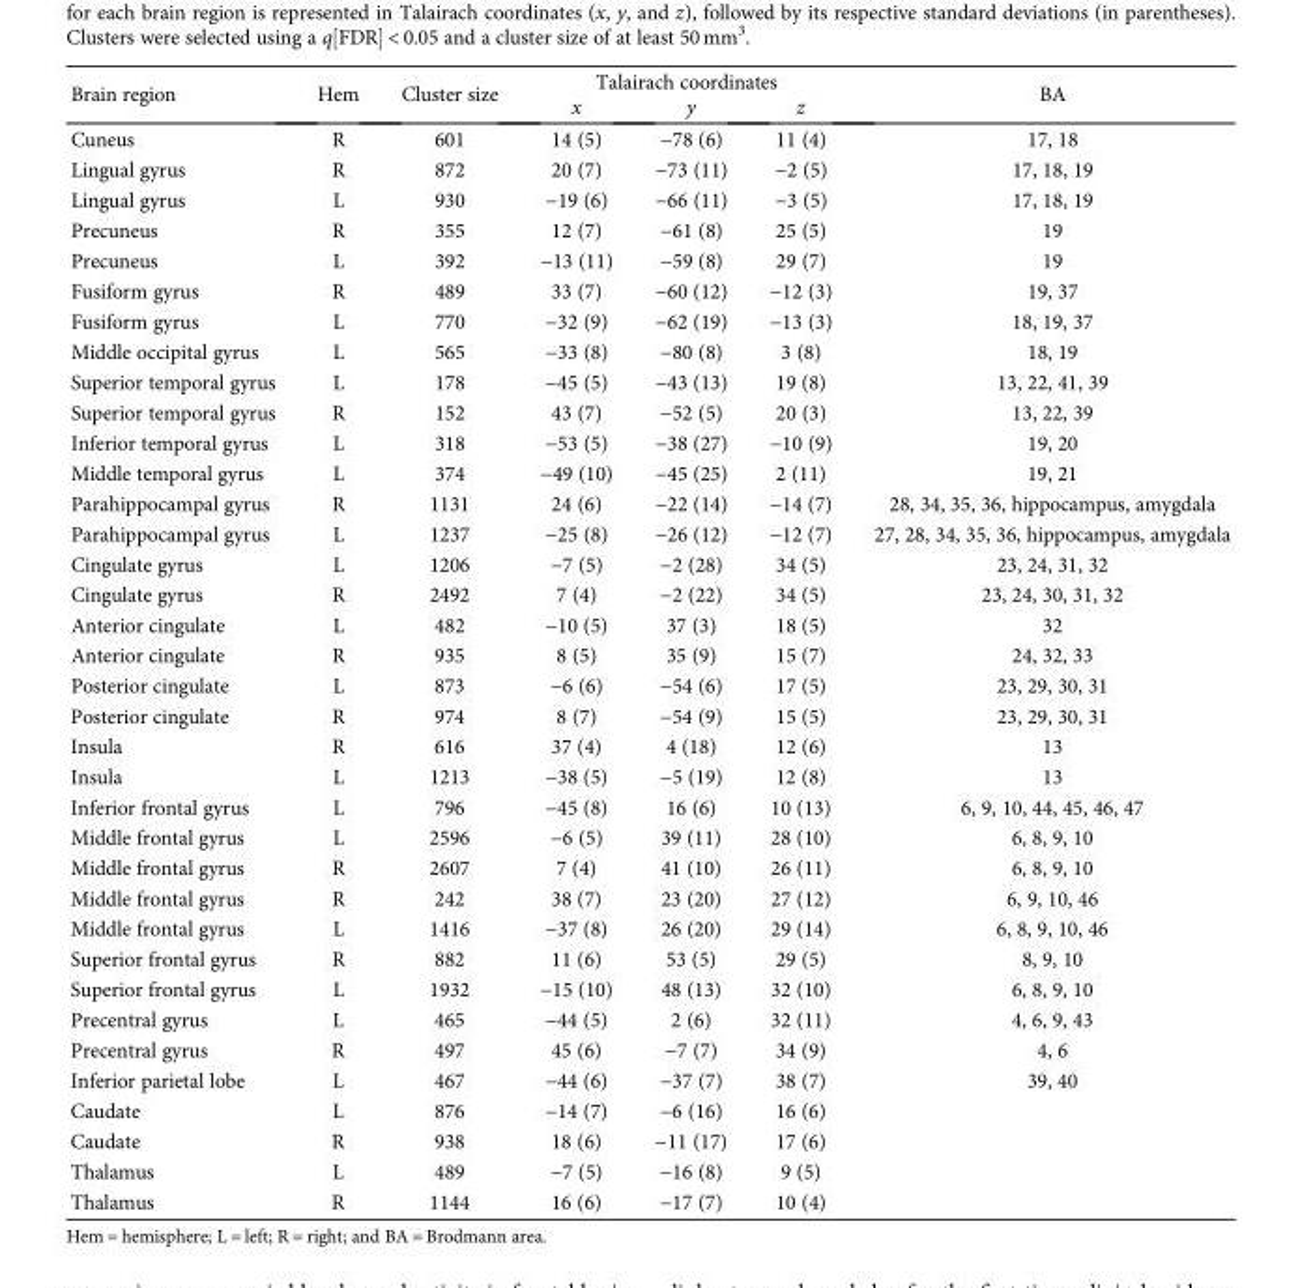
<table><thead><tr><td rowspan="2">Brain region</td><td rowspan="2">Hem</td><td rowspan="2">Cluster size</td><td colspan="3">Talairach coordinates</td><td rowspan="2">BA</td></tr><tr><td>x</td><td>y</td><td>z</td></tr></thead><tbody><tr><td>Cuneus</td><td>R</td><td>601</td><td>14 (5)</td><td>−78 (6)</td><td>11 (4)</td><td>17, 18</td></tr><tr><td>Lingual gyrus</td><td>R</td><td>872</td><td>20 (7)</td><td>−73 (11)</td><td>−2 (5)</td><td>17, 18, 19</td></tr><tr><td>Lingual gyrus</td><td>L</td><td>930</td><td>−19 (6)</td><td>−66 (11)</td><td>−3 (5)</td><td>17, 18, 19</td></tr><tr><td>Precuneus</td><td>R</td><td>355</td><td>12 (7)</td><td>−61 (8)</td><td>25 (5)</td><td>19</td></tr><tr><td>Precuneus</td><td>L</td><td>392</td><td>−13 (11)</td><td>−59 (8)</td><td>29 (7)</td><td>19</td></tr><tr><td>Fusiform gyrus</td><td>R</td><td>489</td><td>33 (7)</td><td>−60 (12)</td><td>−12 (3)</td><td>19, 37</td></tr><tr><td>Fusiform gyrus</td><td>L</td><td>770</td><td>−32 (9)</td><td>−62 (19)</td><td>−13 (3)</td><td>18, 19, 37</td></tr><tr><td>Middle occipital gyrus</td><td>L</td><td>565</td><td>−33 (8)</td><td>−80 (8)</td><td>3 (8)</td><td>18, 19</td></tr><tr><td>Superior temporal gyrus</td><td>L</td><td>178</td><td>−45 (5)</td><td>−43 (13)</td><td>19 (8)</td><td>13, 22, 41, 39</td></tr><tr><td>Superior temporal gyrus</td><td>R</td><td>152</td><td>43 (7)</td><td>−52 (5)</td><td>20 (3)</td><td>13, 22, 39</td></tr><tr><td>Inferior temporal gyrus</td><td>L</td><td>318</td><td>−53 (5)</td><td>−38 (27)</td><td>−10 (9)</td><td>19, 20</td></tr><tr><td>Middle temporal gyrus</td><td>L</td><td>374</td><td>−49 (10)</td><td>−45 (25)</td><td>2 (11)</td><td>19, 21</td></tr><tr><td>Parahippocampal gyrus</td><td>R</td><td>1131</td><td>24 (6)</td><td>−22 (14)</td><td>−14 (7)</td><td>28, 34, 35, 36, hippocampus, amygdala</td></tr><tr><td>Parahippocampal gyrus</td><td>L</td><td>1237</td><td>−25 (8)</td><td>−26 (12)</td><td>−12 (7)</td><td>27, 28, 34, 35, 36, hippocampus, amygdala</td></tr><tr><td>Cingulate gyrus</td><td>L</td><td>1206</td><td>−7 (5)</td><td>−2 (28)</td><td>34 (5)</td><td>23, 24, 31, 32</td></tr><tr><td>Cingulate gyrus</td><td>R</td><td>2492</td><td>7 (4)</td><td>−2 (22)</td><td>34 (5)</td><td>23, 24, 30, 31, 32</td></tr><tr><td>Anterior cingulate</td><td>L</td><td>482</td><td>−10 (5)</td><td>37 (3)</td><td>18 (5)</td><td>32</td></tr><tr><td>Anterior cingulate</td><td>R</td><td>935</td><td>8 (5)</td><td>35 (9)</td><td>15 (7)</td><td>24, 32, 33</td></tr><tr><td>Posterior cingulate</td><td>L</td><td>873</td><td>−6 (6)</td><td>−54 (6)</td><td>17 (5)</td><td>23, 29, 30, 31</td></tr><tr><td>Posterior cingulate</td><td>R</td><td>974</td><td>8 (7)</td><td>−54 (9)</td><td>15 (5)</td><td>23, 29, 30, 31</td></tr><tr><td>Insula</td><td>R</td><td>616</td><td>37 (4)</td><td>4 (18)</td><td>12 (6)</td><td>13</td></tr><tr><td>Insula</td><td>L</td><td>1213</td><td>−38 (5)</td><td>−5 (19)</td><td>12 (8)</td><td>13</td></tr><tr><td>Inferior frontal gyrus</td><td>L</td><td>796</td><td>−45 (8)</td><td>16 (6)</td><td>10 (13)</td><td>6, 9, 10, 44, 45, 46, 47</td></tr><tr><td>Middle frontal gyrus</td><td>L</td><td>2596</td><td>−6 (5)</td><td>39 (11)</td><td>28 (10)</td><td>6, 8, 9, 10</td></tr><tr><td>Middle frontal gyrus</td><td>R</td><td>2607</td><td>7 (4)</td><td>41 (10)</td><td>26 (11)</td><td>6, 8, 9, 10</td></tr><tr><td>Middle frontal gyrus</td><td>R</td><td>242</td><td>38 (7)</td><td>23 (20)</td><td>27 (12)</td><td>6, 9, 10, 46</td></tr><tr><td>Middle frontal gyrus</td><td>L</td><td>1416</td><td>−37 (8)</td><td>26 (20)</td><td>29 (14)</td><td>6, 8, 9, 10, 46</td></tr><tr><td>Superior frontal gyrus</td><td>R</td><td>882</td><td>11 (6)</td><td>53 (5)</td><td>29 (5)</td><td>8, 9, 10</td></tr><tr><td>Superior frontal gyrus</td><td>L</td><td>1932</td><td>−15 (10)</td><td>48 (13)</td><td>32 (10)</td><td>6, 8, 9, 10</td></tr><tr><td>Precentral gyrus</td><td>L</td><td>465</td><td>−44 (5)</td><td>2 (6)</td><td>32 (11)</td><td>4, 6, 9, 43</td></tr><tr><td>Precentral gyrus</td><td>R</td><td>497</td><td>45 (6)</td><td>−7 (7)</td><td>34 (9)</td><td>4, 6</td></tr><tr><td>Inferior parietal lobe</td><td>L</td><td>467</td><td>−44 (6)</td><td>−37 (7)</td><td>38 (7)</td><td>39, 40</td></tr><tr><td>Caudate</td><td>L</td><td>876</td><td>−14 (7)</td><td>−6 (16)</td><td>16 (6)</td><td></td></tr><tr><td>Caudate</td><td>R</td><td>938</td><td>18 (6)</td><td>−11 (17)</td><td>17 (6)</td><td></td></tr><tr><td>Thalamus</td><td>L</td><td>489</td><td>−7 (5)</td><td>−16 (8)</td><td>9 (5)</td><td></td></tr><tr><td>Thalamus</td><td>R</td><td>1144</td><td>16 (6)</td><td>−17 (7)</td><td>10 (4)</td><td></td></tr></tbody></table>